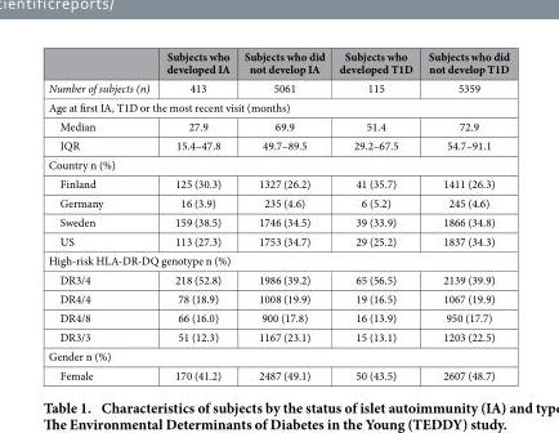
<table><thead><tr><td></td><td>Subjects who developed IA</td><td>Subjects who did not develop IA</td><td>Subjects who developed T1D</td><td>Subjects who did not develop T1D</td></tr></thead><tbody><tr><td>Number of subjects (n)</td><td>413</td><td>5061</td><td>115</td><td>5359</td></tr><tr><td colspan="5">Age at first IA, T1D or the most recent visit (months)</td></tr><tr><td>Median</td><td>27.9</td><td>69.9</td><td>51.4</td><td>72.9</td></tr><tr><td>IQR</td><td>15.4–47.8</td><td>49.7–89.5</td><td>29.2–67.5</td><td>54.7–91.1</td></tr><tr><td colspan="5">Country n (%)</td></tr><tr><td>Finland</td><td>125 (30.3)</td><td>1327 (26.2)</td><td>41 (35.7)</td><td>1411 (26.3)</td></tr><tr><td>Germany</td><td>16 (3.9)</td><td>235 (4.6)</td><td>6 (5.2)</td><td>245 (4.6)</td></tr><tr><td>Sweden</td><td>159 (38.5)</td><td>1746 (34.5)</td><td>39 (33.9)</td><td>1866 (34.8)</td></tr><tr><td>US</td><td>113 (27.3)</td><td>1753 (34.7)</td><td>29 (25.2)</td><td>1837 (34.3)</td></tr><tr><td colspan="5">High-risk HLA-DR-DQ genotype n (%)</td></tr><tr><td>DR3/4</td><td>218 (52.8)</td><td>1986 (39.2)</td><td>65 (56.5)</td><td>2139 (39.9)</td></tr><tr><td>DR4/4</td><td>78 (18.9)</td><td>1008 (19.9)</td><td>19 (16.5)</td><td>1067 (19.9)</td></tr><tr><td>DR4/8</td><td>66 (16.0)</td><td>900 (17.8)</td><td>16 (13.9)</td><td>950 (17.7)</td></tr><tr><td>DR3/3</td><td>51 (12.3)</td><td>1167 (23.1)</td><td>15 (13.1)</td><td>1203 (22.5)</td></tr><tr><td colspan="5">Gender n (%)</td></tr><tr><td>Female</td><td>170 (41.2)</td><td>2487 (49.1)</td><td>50 (43.5)</td><td>2607 (48.7)</td></tr></tbody></table>